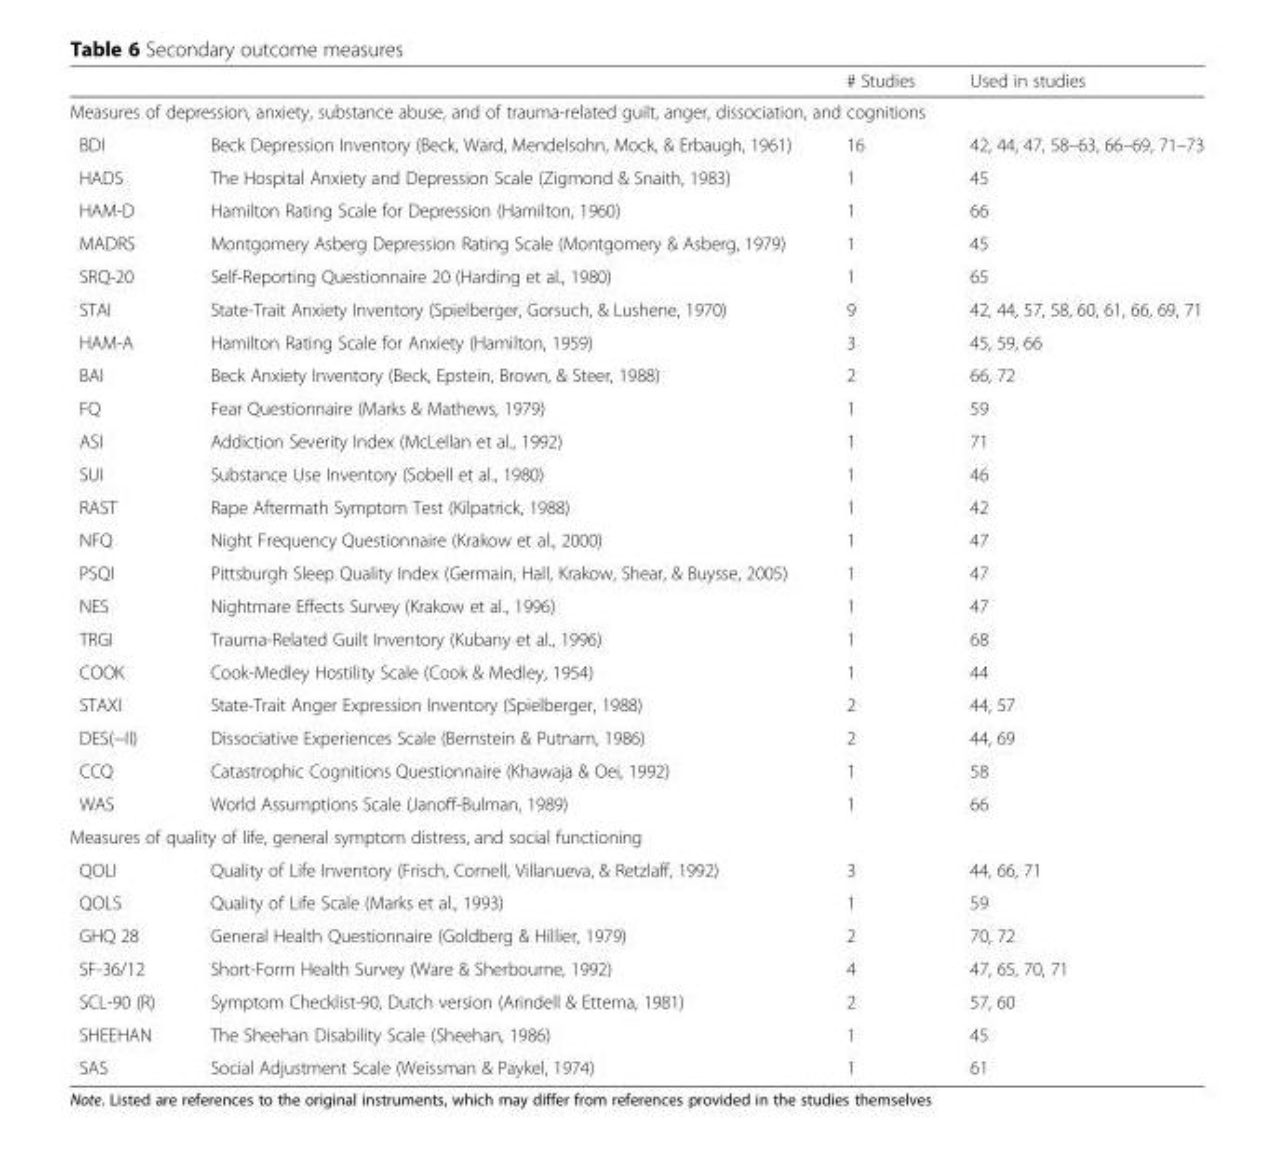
<table><thead><tr><td></td><td></td><td># Studies</td><td>Used in studies</td></tr></thead><tbody><tr><td colspan="4">Measures of depression, anxiety, substance abuse, and of trauma-related guilt, anger, dissociation, and cognitions</td></tr><tr><td>BDI</td><td>Beck Depression Inventory (Beck, Ward, Mendelsohn, Mock, &amp; Erbaugh, 1961)</td><td>16</td><td>42, 44, 47, 58–63, 66–69, 71–73</td></tr><tr><td>HADS</td><td>The Hospital Anxiety and Depression Scale (Zigmond &amp; Snaith, 1983)</td><td>1</td><td>45</td></tr><tr><td>HAM-D</td><td>Hamilton Rating Scale for Depression (Hamilton, 1960)</td><td>1</td><td>66</td></tr><tr><td>MADRS</td><td>Montgomery Asberg Depression Rating Scale (Montgomery &amp; Asberg, 1979)</td><td>1</td><td>45</td></tr><tr><td>SRQ-20</td><td>Self-Reporting Questionnaire 20 (Harding et al., 1980)</td><td>1</td><td>65</td></tr><tr><td>STAI</td><td>State-Trait Anxiety Inventory (Spielberger, Gorsuch, &amp; Lushene, 1970)</td><td>9</td><td>42, 44, 57, 58, 60, 61, 66, 69, 71</td></tr><tr><td>HAM-A</td><td>Hamilton Rating Scale for Anxiety (Hamilton, 1959)</td><td>3</td><td>45, 59, 66</td></tr><tr><td>BAI</td><td>Beck Anxiety Inventory (Beck, Epstein, Brown, &amp; Steer, 1988)</td><td>2</td><td>66, 72</td></tr><tr><td>FQ</td><td>Fear Questionnaire (Marks &amp; Mathews, 1979)</td><td>1</td><td>59</td></tr><tr><td>ASI</td><td>Addiction Severity Index (McLellan et al., 1992)</td><td>1</td><td>71</td></tr><tr><td>SUI</td><td>Substance Use Inventory (Sobell et al., 1980)</td><td>1</td><td>46</td></tr><tr><td>RAST</td><td>Rape Aftermath Symptom Test (Kilpatrick, 1988)</td><td>1</td><td>42</td></tr><tr><td>NFQ</td><td>Night Frequency Questionnaire (Krakow et al., 2000)</td><td>1</td><td>47</td></tr><tr><td>PSQI</td><td>Pittsburgh Sleep Quality Index (Germain, Hall, Krakow, Shear, &amp; Buysse, 2005)</td><td>1</td><td>47</td></tr><tr><td>NES</td><td>Nightmare Effects Survey (Krakow et al., 1996)</td><td>1</td><td>47</td></tr><tr><td>TRGI</td><td>Trauma-Related Guilt Inventory (Kubany et al., 1996)</td><td>1</td><td>68</td></tr><tr><td>COOK</td><td>Cook-Medley Hostility Scale (Cook &amp; Medley, 1954)</td><td>1</td><td>44</td></tr><tr><td>STAXI</td><td>State-Trait Anger Expression Inventory (Spielberger, 1988)</td><td>2</td><td>44, 57</td></tr><tr><td>DES(−II)</td><td>Dissociative Experiences Scale (Bernstein &amp; Putnam, 1986)</td><td>2</td><td>44, 69</td></tr><tr><td>CCQ</td><td>Catastrophic Cognitions Questionnaire (Khawaja &amp; Oei, 1992)</td><td>1</td><td>58</td></tr><tr><td>WAS</td><td>World Assumptions Scale (Janoff-Bulman, 1989)</td><td>1</td><td>66</td></tr><tr><td colspan="4">Measures of quality of life, general symptom distress, and social functioning</td></tr><tr><td>QOLI</td><td>Quality of Life Inventory (Frisch, Cornell, Villanueva, &amp; Retzlaff, 1992)</td><td>3</td><td>44, 66, 71</td></tr><tr><td>QOLS</td><td>Quality of Life Scale (Marks et al., 1993)</td><td>1</td><td>59</td></tr><tr><td>GHQ 28</td><td>General Health Questionnaire (Goldberg &amp; Hillier, 1979)</td><td>2</td><td>70, 72</td></tr><tr><td>SF-36/12</td><td>Short-Form Health Survey (Ware &amp; Sherbourne, 1992)</td><td>4</td><td>47, 65, 70, 71</td></tr><tr><td>SCL-90 (R)</td><td>Symptom Checklist-90, Dutch version (Arindell &amp; Ettema, 1981)</td><td>2</td><td>57, 60</td></tr><tr><td>SHEEHAN</td><td>The Sheehan Disability Scale (Sheehan, 1986)</td><td>1</td><td>45</td></tr><tr><td>SAS</td><td>Social Adjustment Scale (Weissman &amp; Paykel, 1974)</td><td>1</td><td>61</td></tr></tbody></table>